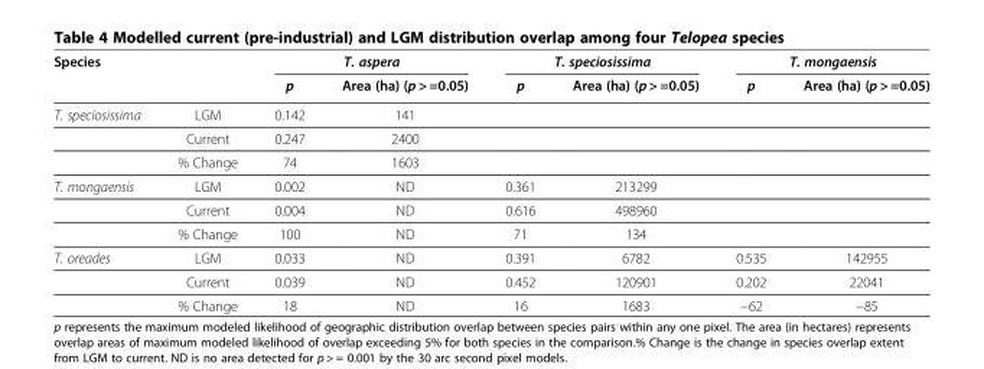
<table><thead><tr><td rowspan="2">Species</td><td rowspan="2"></td><td colspan="2">T. aspera</td><td colspan="2">T. speciosissima</td><td colspan="2">T. mongaensis</td></tr><tr><td>p</td><td>Area (ha) (p &gt; =0.05)</td><td>p</td><td>Area (ha) (p &gt; =0.05)</td><td>p</td><td>Area (ha) (p &gt; =0.05)</td></tr></thead><tbody><tr><td rowspan="3">T. speciosissima</td><td>LGM</td><td>0.142</td><td>141</td><td></td><td></td><td></td><td></td></tr><tr><td>Current</td><td>0.247</td><td>2400</td><td></td><td></td><td></td><td></td></tr><tr><td>% Change</td><td>74</td><td>1603</td><td></td><td></td><td></td><td></td></tr><tr><td rowspan="3">T. mongaensis</td><td>LGM</td><td>0.002</td><td>ND</td><td>0.361</td><td>213299</td><td></td><td></td></tr><tr><td>Current</td><td>0.004</td><td>ND</td><td>0.616</td><td>498960</td><td></td><td></td></tr><tr><td>% Change</td><td>100</td><td>ND</td><td>71</td><td>134</td><td></td><td></td></tr><tr><td rowspan="3">T. oreades</td><td>LGM</td><td>0.033</td><td>ND</td><td>0.391</td><td>6782</td><td>0.535</td><td>142955</td></tr><tr><td>Current</td><td>0.039</td><td>ND</td><td>0.452</td><td>120901</td><td>0.202</td><td>22041</td></tr><tr><td>% Change</td><td>18</td><td>ND</td><td>16</td><td>1683</td><td>−62</td><td>−85</td></tr></tbody></table>